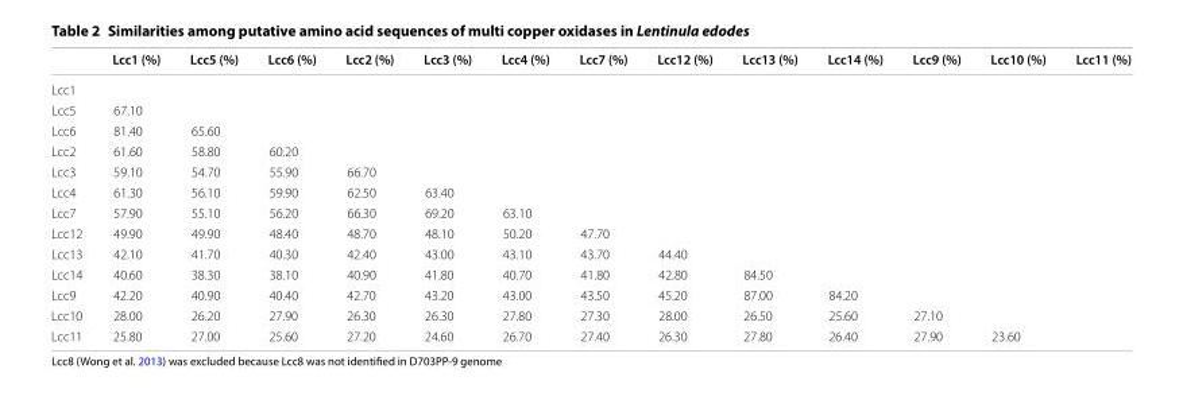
<table><thead><tr><td></td><td>Lcc1 (%)</td><td>Lcc5 (%)</td><td>Lcc6 (%)</td><td>Lcc2 (%)</td><td>Lcc3 (%)</td><td>Lcc4 (%)</td><td>Lcc7 (%)</td><td>Lcc12 (%)</td><td>Lcc13 (%)</td><td>Lcc14 (%)</td><td>Lcc9 (%)</td><td>Lcc10 (%)</td><td>Lcc11 (%)</td></tr></thead><tbody><tr><td colspan="14">Lcc1</td></tr><tr><td>Lcc5</td><td>67.10</td><td></td><td></td><td></td><td></td><td></td><td></td><td></td><td></td><td></td><td></td><td></td><td></td></tr><tr><td>Lcc6</td><td>81.40</td><td>65.60</td><td></td><td></td><td></td><td></td><td></td><td></td><td></td><td></td><td></td><td></td><td></td></tr><tr><td>Lcc2</td><td>61.60</td><td>58.80</td><td>60.20</td><td></td><td></td><td></td><td></td><td></td><td></td><td></td><td></td><td></td><td></td></tr><tr><td>Lcc3</td><td>59.10</td><td>54.70</td><td>55.90</td><td>66.70</td><td></td><td></td><td></td><td></td><td></td><td></td><td></td><td></td><td></td></tr><tr><td>Lcc4</td><td>61.30</td><td>56.10</td><td>59.90</td><td>62.50</td><td>63.40</td><td></td><td></td><td></td><td></td><td></td><td></td><td></td><td></td></tr><tr><td>Lcc7</td><td>57.90</td><td>55.10</td><td>56.20</td><td>66.30</td><td>69.20</td><td>63.10</td><td></td><td></td><td></td><td></td><td></td><td></td><td></td></tr><tr><td>Lcc12</td><td>49.90</td><td>49.90</td><td>48.40</td><td>48.70</td><td>48.10</td><td>50.20</td><td>47.70</td><td></td><td></td><td></td><td></td><td></td><td></td></tr><tr><td>Lcc13</td><td>42.10</td><td>41.70</td><td>40.30</td><td>42.40</td><td>43.00</td><td>43.10</td><td>43.70</td><td>44.40</td><td></td><td></td><td></td><td></td><td></td></tr><tr><td>Lcc14</td><td>40.60</td><td>38.30</td><td>38.10</td><td>40.90</td><td>41.80</td><td>40.70</td><td>41.80</td><td>42.80</td><td>84.50</td><td></td><td></td><td></td><td></td></tr><tr><td>Lcc9</td><td>42.20</td><td>40.90</td><td>40.40</td><td>42.70</td><td>43.20</td><td>43.00</td><td>43.50</td><td>45.20</td><td>87.00</td><td>84.20</td><td></td><td></td><td></td></tr><tr><td>Lcc10</td><td>28.00</td><td>26.20</td><td>27.90</td><td>26.30</td><td>26.30</td><td>27.80</td><td>27.30</td><td>28.00</td><td>26.50</td><td>25.60</td><td>27.10</td><td></td><td></td></tr><tr><td>Lcc11</td><td>25.80</td><td>27.00</td><td>25.60</td><td>27.20</td><td>24.60</td><td>26.70</td><td>27.40</td><td>26.30</td><td>27.80</td><td>26.40</td><td>27.90</td><td>23.60</td><td></td></tr></tbody></table>